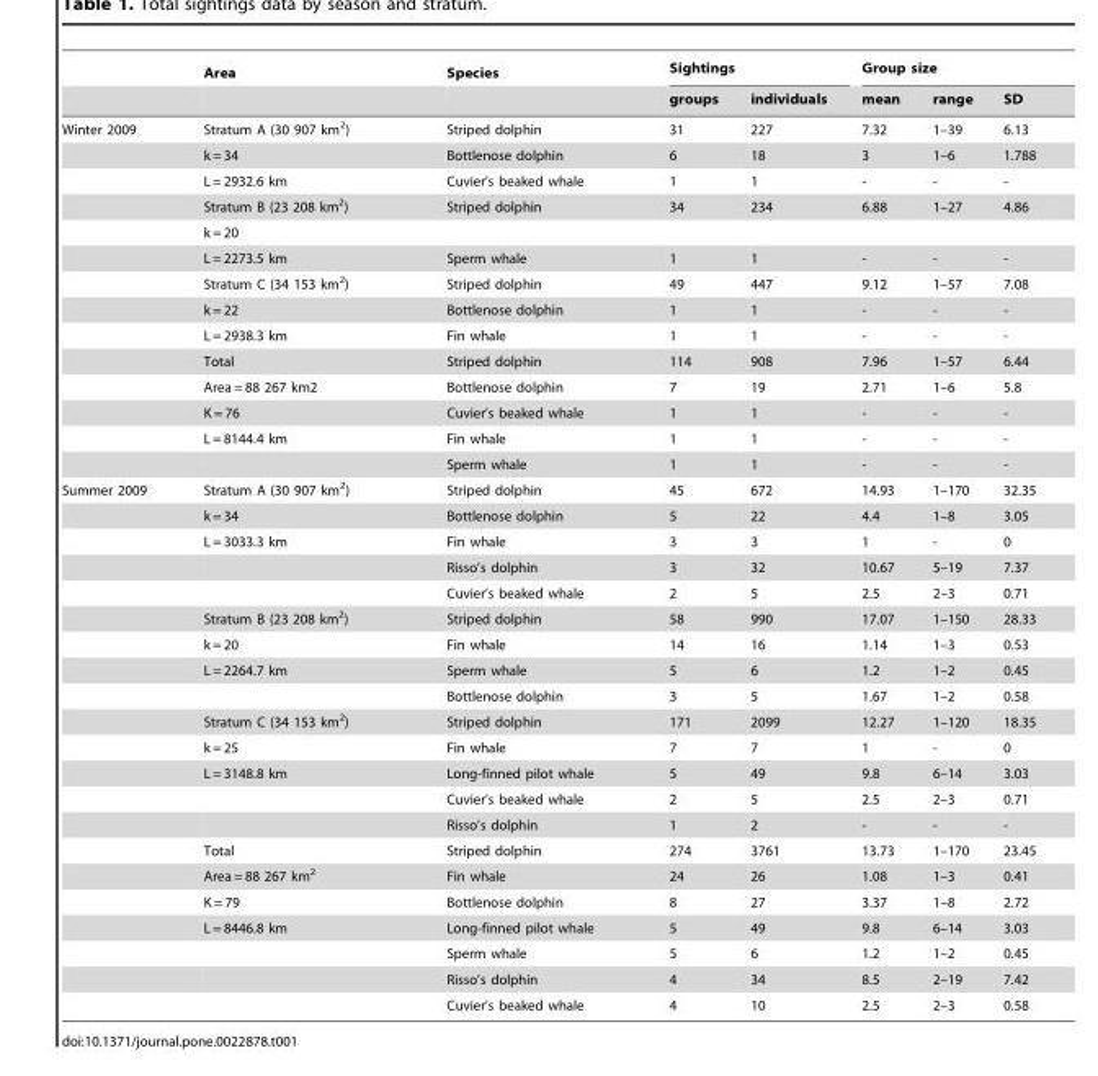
<table><thead><tr><td rowspan="2"></td><td rowspan="2">Area</td><td rowspan="2">Species</td><td colspan="2">Sightings</td><td colspan="3">Group size</td></tr><tr><td>groups</td><td>individuals</td><td>mean</td><td>range</td><td>SD</td></tr></thead><tbody><tr><td rowspan="14">Winter 2009</td><td>Stratum A (30 907 km<sup>2</sup>)</td><td>Striped dolphin</td><td>31</td><td>227</td><td>7.32</td><td>1–39</td><td>6.13</td></tr><tr><td>k = 34</td><td>Bottlenose dolphin</td><td>6</td><td>18</td><td>3</td><td>1–6</td><td>1.788</td></tr><tr><td>L = 2932.6 km</td><td>Cuvier’s beaked whale</td><td>1</td><td>1</td><td>-</td><td>-</td><td>-</td></tr><tr><td>Stratum B (23 208 km<sup>2</sup>)</td><td>Striped dolphin</td><td>34</td><td>234</td><td>6.88</td><td>1–27</td><td>4.86</td></tr><tr><td>k = 20</td><td></td><td></td><td></td><td></td><td></td><td></td></tr><tr><td>L = 2273.5 km</td><td>Sperm whale</td><td>1</td><td>1</td><td>-</td><td>-</td><td>-</td></tr><tr><td>Stratum C (34 153 km<sup>2</sup>)</td><td>Striped dolphin</td><td>49</td><td>447</td><td>9.12</td><td>1–57</td><td>7.08</td></tr><tr><td>k = 22</td><td>Bottlenose dolphin</td><td>1</td><td>1</td><td>-</td><td>-</td><td>-</td></tr><tr><td>L = 2938.3 km</td><td>Fin whale</td><td>1</td><td>1</td><td>-</td><td>-</td><td>-</td></tr><tr><td>Total</td><td>Striped dolphin</td><td>114</td><td>908</td><td>7.96</td><td>1–57</td><td>6.44</td></tr><tr><td>Area = 88 267 km2</td><td>Bottlenose dolphin</td><td>7</td><td>19</td><td>2.71</td><td>1–6</td><td>5.8</td></tr><tr><td>K = 76</td><td>Cuvier’s beaked whale</td><td>1</td><td>1</td><td>-</td><td>-</td><td>-</td></tr><tr><td>L = 8144.4 km</td><td>Fin whale</td><td>1</td><td>1</td><td>-</td><td>-</td><td>-</td></tr><tr><td></td><td>Sperm whale</td><td>1</td><td>1</td><td>-</td><td>-</td><td>-</td></tr><tr><td rowspan="21">Summer 2009</td><td>Stratum A (30 907 km<sup>2</sup>)</td><td>Striped dolphin</td><td>45</td><td>672</td><td>14.93</td><td>1–170</td><td>32.35</td></tr><tr><td>k = 34</td><td>Bottlenose dolphin</td><td>5</td><td>22</td><td>4.4</td><td>1–8</td><td>3.05</td></tr><tr><td>L = 3033.3 km</td><td>Fin whale</td><td>3</td><td>3</td><td>1</td><td>-</td><td>0</td></tr><tr><td></td><td>Risso’s dolphin</td><td>3</td><td>32</td><td>10.67</td><td>5–19</td><td>7.37</td></tr><tr><td></td><td>Cuvier’s beaked whale</td><td>2</td><td>5</td><td>2.5</td><td>2–3</td><td>0.71</td></tr><tr><td>Stratum B (23 208 km<sup>2</sup>)</td><td>Striped dolphin</td><td>58</td><td>990</td><td>17.07</td><td>1–150</td><td>28.33</td></tr><tr><td>k = 20</td><td>Fin whale</td><td>14</td><td>16</td><td>1.14</td><td>1–3</td><td>0.53</td></tr><tr><td>L = 2264.7 km</td><td>Sperm whale</td><td>5</td><td>6</td><td>1.2</td><td>1–2</td><td>0.45</td></tr><tr><td></td><td>Bottlenose dolphin</td><td>3</td><td>5</td><td>1.67</td><td>1–2</td><td>0.58</td></tr><tr><td>Stratum C (34 153 km<sup>2</sup>)</td><td>Striped dolphin</td><td>171</td><td>2099</td><td>12.27</td><td>1–120</td><td>18.35</td></tr><tr><td>k = 25</td><td>Fin whale</td><td>7</td><td>7</td><td>1</td><td>-</td><td>0</td></tr><tr><td>L = 3148.8 km</td><td>Long-finned pilot whale</td><td>5</td><td>49</td><td>9.8</td><td>6–14</td><td>3.03</td></tr><tr><td></td><td>Cuvier’s beaked whale</td><td>2</td><td>5</td><td>2.5</td><td>2–3</td><td>0.71</td></tr><tr><td></td><td>Risso’s dolphin</td><td>1</td><td>2</td><td>-</td><td>-</td><td>-</td></tr><tr><td>Total</td><td>Striped dolphin</td><td>274</td><td>3761</td><td>13.73</td><td>1–170</td><td>23.45</td></tr><tr><td>Area = 88 267 km<sup>2</sup></td><td>Fin whale</td><td>24</td><td>26</td><td>1.08</td><td>1–3</td><td>0.41</td></tr><tr><td>K = 79</td><td>Bottlenose dolphin</td><td>8</td><td>27</td><td>3.37</td><td>1–8</td><td>2.72</td></tr><tr><td>L = 8446.8 km</td><td>Long-finned pilot whale</td><td>5</td><td>49</td><td>9.8</td><td>6–14</td><td>3.03</td></tr><tr><td></td><td>Sperm whale</td><td>5</td><td>6</td><td>1.2</td><td>1–2</td><td>0.45</td></tr><tr><td></td><td>Risso’s dolphin</td><td>4</td><td>34</td><td>8.5</td><td>2–19</td><td>7.42</td></tr><tr><td></td><td>Cuvier’s beaked whale</td><td>4</td><td>10</td><td>2.5</td><td>2–3</td><td>0.58</td></tr></tbody></table>